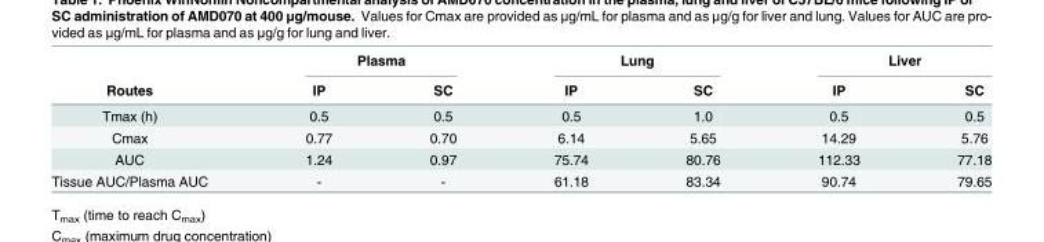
<table><thead><tr><td rowspan="2">Routes</td><td colspan="2">Plasma</td><td colspan="2">Lung</td><td colspan="2">Liver</td></tr><tr><td>IP</td><td>SC</td><td>IP</td><td>SC</td><td>IP</td><td>SC</td></tr></thead><tbody><tr><td>Tmax (h)</td><td>0.5</td><td>0.5</td><td>0.5</td><td>1.0</td><td>0.5</td><td>0.5</td></tr><tr><td>Cmax</td><td>0.77</td><td>0.70</td><td>6.14</td><td>5.65</td><td>14.29</td><td>5.76</td></tr><tr><td>AUC</td><td>1.24</td><td>0.97</td><td>75.74</td><td>80.76</td><td>112.33</td><td>77.18</td></tr><tr><td>Tissue AUC/Plasma AUC</td><td>-</td><td>-</td><td>61.18</td><td>83.34</td><td>90.74</td><td>79.65</td></tr></tbody></table>